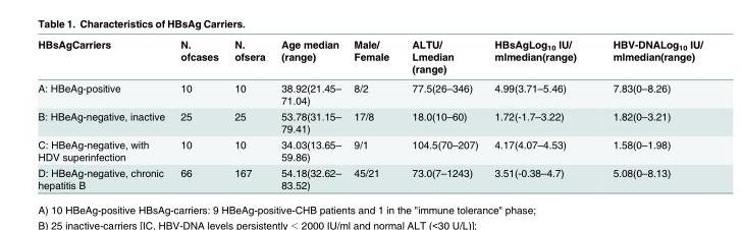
<table><thead><tr><td>HBsAgCarriers</td><td>N. ofcases</td><td>N. ofsera</td><td>Age median (range)</td><td>Male/ Female</td><td>ALTU/ Lmedian (range)</td><td>HBsAgLog<sub>10</sub> IU/ mlmedian(range)</td><td>HBV-DNALog<sub>10</sub> IU/ mlmedian(range)</td></tr></thead><tbody><tr><td>A: HBeAg-positive</td><td>10</td><td>10</td><td>38.92(21.45– 71.04)</td><td>8/2</td><td>77.5(26–346)</td><td>4.99(3.71–5.46)</td><td>7.83(0–8.26)</td></tr><tr><td>B: HBeAg-negative, inactive</td><td>25</td><td>25</td><td>53.78(31.15– 79.41)</td><td>17/8</td><td>18.0(10–60)</td><td>1.72(-1.7–3.22)</td><td>1.82(0–3.21)</td></tr><tr><td>C: HBeAg-negative, with HDV superinfection</td><td>10</td><td>10</td><td>34.03(13.65– 59.86)</td><td>9/1</td><td>104.5(70–207)</td><td>4.17(4.07–4.53)</td><td>1.58(0–1.98)</td></tr><tr><td>D: HBeAg-negative, chronic hepatitis B</td><td>66</td><td>167</td><td>54.18(32.62– 83.52)</td><td>45/21</td><td>73.0(7–1243)</td><td>3.51(-0.38–4.7)</td><td>5.08(0–8.13)</td></tr></tbody></table>